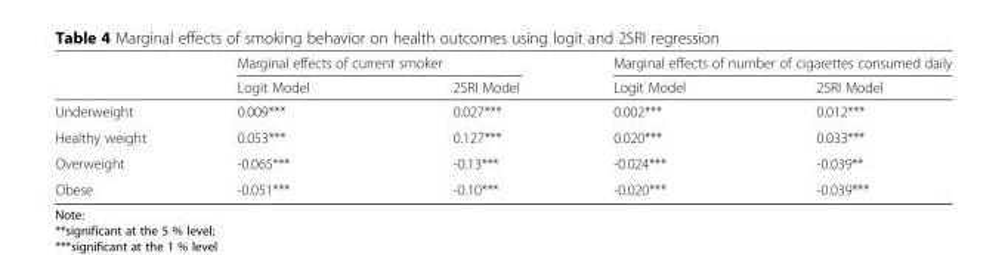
<table><thead><tr><td rowspan="2"></td><td colspan="2">Marginal effects of current smoker</td><td colspan="2">Marginal effects of number of cigarettes consumed daily</td></tr><tr><td>Logit Model</td><td>2SRI Model</td><td>Logit Model</td><td>2SRI Model</td></tr></thead><tbody><tr><td>Underweight</td><td>0.009***</td><td>0.027***</td><td>0.002***</td><td>0.012***</td></tr><tr><td>Healthy weight</td><td>0.053***</td><td>0.127***</td><td>0.020***</td><td>0.033***</td></tr><tr><td>Overweight</td><td>-0.065***</td><td>-0.13***</td><td>-0.024***</td><td>-0.039**</td></tr><tr><td>Obese</td><td>-0.051***</td><td>-0.10***</td><td>-0.020***</td><td>-0.039***</td></tr></tbody></table>